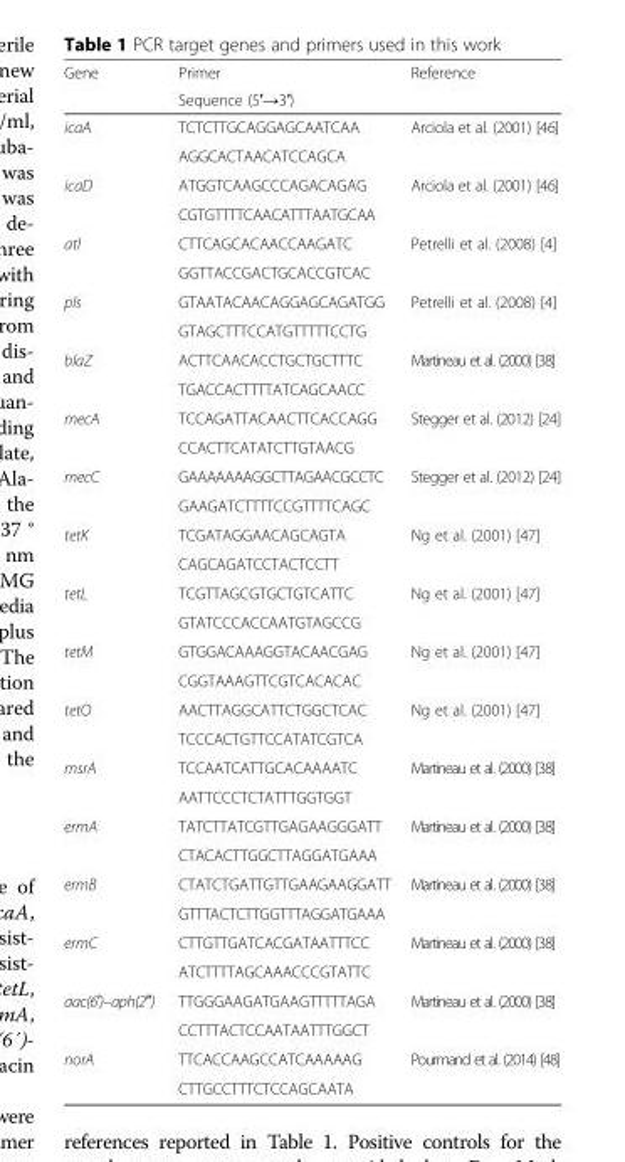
<table><thead><tr><td rowspan="2">Gene</td><td rowspan="2">Primer Sequence (5′→3′)</td><td rowspan="2">Reference</td></tr><tr></tr></thead><tbody><tr><td rowspan="2">icaA</td><td>TCTCTTGCAGGAGCAATCAA</td><td rowspan="2">Arciola et al. (2001) [46]</td></tr><tr><td>AGGCACTAACATCCAGCA</td></tr><tr><td rowspan="2">icaD</td><td>ATGGTCAAGCCCAGACAGAG</td><td rowspan="2">Arciola et al. (2001) [46]</td></tr><tr><td>CGTGTTTTCAACATTTAATGCAA</td></tr><tr><td rowspan="2">atl</td><td>CTTCAGCACAACCAAGATC</td><td rowspan="2">Petrelli et al. (2008) [4]</td></tr><tr><td>GGTTACCGACTGCACCGTCAC</td></tr><tr><td rowspan="2">pls</td><td>GTAATACAACAGGAGCAGATGG</td><td rowspan="2">Petrelli et al. (2008) [4]</td></tr><tr><td>GTAGCTTTCCATGTTTTTCCTG</td></tr><tr><td rowspan="2">blaZ</td><td>ACTTCAACACCTGCTGCTTTC</td><td rowspan="2">Martineau et al. (2000) [38]</td></tr><tr><td>TGACCACTTTTATCAGCAACC</td></tr><tr><td rowspan="2">mecA</td><td>TCCAGATTACAACTTCACCAGG</td><td rowspan="2">Stegger et al. (2012) [24]</td></tr><tr><td>CCACTTCATATCTTGTAACG</td></tr><tr><td rowspan="2">mecC</td><td>GAAAAAAAGGCTTAGAACGCCTC</td><td rowspan="2">Stegger et al. (2012) [24]</td></tr><tr><td>GAAGATCTTTTCCGTTTTCAGC</td></tr><tr><td rowspan="2">tetK</td><td>TCGATAGGAACAGCAGTA</td><td rowspan="2">Ng et al. (2001) [47]</td></tr><tr><td>CAGCAGATCCTACTCCTT</td></tr><tr><td rowspan="2">tetL</td><td>TCGTTAGCGTGCTGTCATTC</td><td rowspan="2">Ng et al. (2001) [47]</td></tr><tr><td>GTATCCCACCAATGTAGCCG</td></tr><tr><td rowspan="2">tetM</td><td>GTGGACAAAGGTACAACGAG</td><td rowspan="2">Ng et al. (2001) [47]</td></tr><tr><td>CGGTAAAGTTCGTCACACAC</td></tr><tr><td rowspan="2">tetO</td><td>AACTTAGGCATTCTGGCTCAC</td><td rowspan="2">Ng et al. (2001) [47]</td></tr><tr><td>TCCCACTGTTCCATATCGTCA</td></tr><tr><td rowspan="2">msrA</td><td>TCCAATCATTGCACAAAATC</td><td rowspan="2">Martineau et al. (2000) [38]</td></tr><tr><td>AATTCCCTCTATTTGGTGGT</td></tr><tr><td rowspan="2">ermA</td><td>TATCTTATCGTTGAGAAGGGATT</td><td rowspan="2">Martineau et al. (2000) [38]</td></tr><tr><td>CTACACTTGGCTTAGGATGAAA</td></tr><tr><td rowspan="2">ermB</td><td>CTATCTGATTGTTGAAGAAGGATT</td><td rowspan="2">Martineau et al. (2000) [38]</td></tr><tr><td>GTTTACTCTTGGTTTAGGATGAAA</td></tr><tr><td rowspan="2">ermC</td><td>CTTGTTGATCACGATAATTTCC</td><td rowspan="2">Martineau et al. (2000) [38]</td></tr><tr><td>ATCTTTTAGCAAACCCGTATTC</td></tr><tr><td rowspan="2">aac(6′)–aph(2″)</td><td>TTGGGAAGATGAAGTTTTTAGA</td><td rowspan="2">Martineau et al. (2000) [38]</td></tr><tr><td>CCTTTACTCCAATAATTTGGCT</td></tr><tr><td rowspan="2">norA</td><td>TTCACCAAGCCATCAAAAAG</td><td rowspan="2">Pourmand et al. (2014) [48]</td></tr><tr><td>CTTGCCTTTCTCCAGCAATA</td></tr></tbody></table>